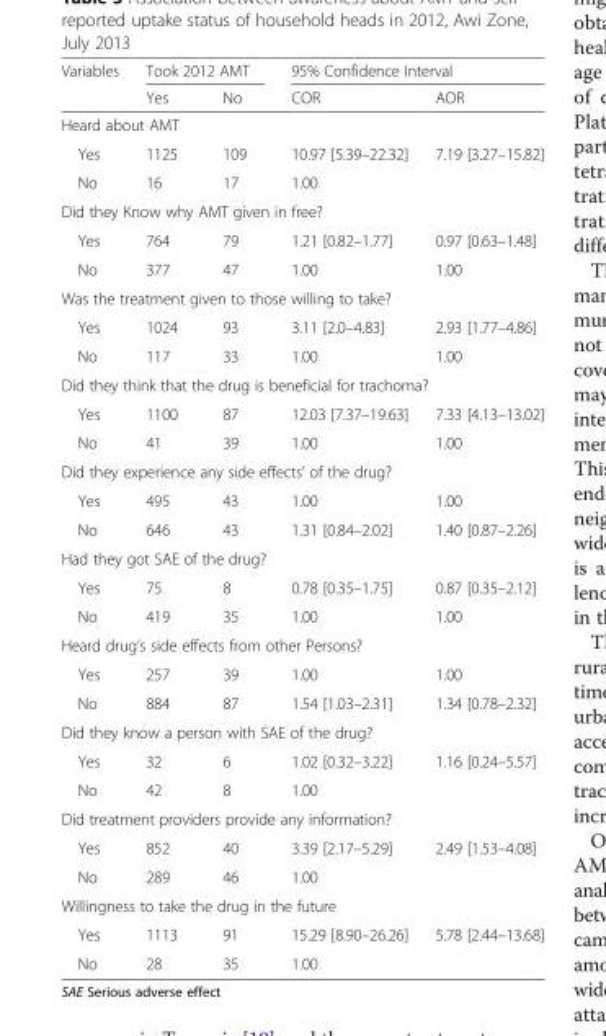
<table><thead><tr><td rowspan="2">Variables</td><td colspan="2">Took 2012 AMT</td><td colspan="2">95% Confidence Interval</td></tr><tr><td>Yes</td><td>No</td><td>COR</td><td>AOR</td></tr></thead><tbody><tr><td colspan="5">Heard about AMT</td></tr><tr><td>Yes</td><td>1125</td><td>109</td><td>10.97 [5.39–22.32]</td><td>7.19 [3.27–15.82]</td></tr><tr><td>No</td><td>16</td><td>17</td><td>1.00</td><td></td></tr><tr><td colspan="5">Did they Know why AMT given in free?</td></tr><tr><td>Yes</td><td>764</td><td>79</td><td>1.21 [0.82–1.77]</td><td>0.97 [0.63–1.48]</td></tr><tr><td>No</td><td>377</td><td>47</td><td>1.00</td><td>1.00</td></tr><tr><td colspan="5">Was the treatment given to those willing to take?</td></tr><tr><td>Yes</td><td>1024</td><td>93</td><td>3.11 [2.0–4.83]</td><td>2.93 [1.77–4.86]</td></tr><tr><td>No</td><td>117</td><td>33</td><td>1.00</td><td>1.00</td></tr><tr><td colspan="5">Did they think that the drug is beneficial for trachoma?</td></tr><tr><td>Yes</td><td>1100</td><td>87</td><td>12.03 [7.37–19.63]</td><td>7.33 [4.13–13.02]</td></tr><tr><td>No</td><td>41</td><td>39</td><td>1.00</td><td>1.00</td></tr><tr><td colspan="5">Did they experience any side effects’ of the drug?</td></tr><tr><td>Yes</td><td>495</td><td>43</td><td>1.00</td><td>1.00</td></tr><tr><td>No</td><td>646</td><td>43</td><td>1.31 [0.84–2.02]</td><td>1.40 [0.87–2.26]</td></tr><tr><td colspan="5">Had they got SAE of the drug?</td></tr><tr><td>Yes</td><td>75</td><td>8</td><td>0.78 [0.35–1.75]</td><td>0.87 [0.35–2.12]</td></tr><tr><td>No</td><td>419</td><td>35</td><td>1.00</td><td>1.00</td></tr><tr><td colspan="5">Heard drug’s side effects from other Persons?</td></tr><tr><td>Yes</td><td>257</td><td>39</td><td>1.00</td><td>1.00</td></tr><tr><td>No</td><td>884</td><td>87</td><td>1.54 [1.03–2.31]</td><td>1.34 [0.78–2.32]</td></tr><tr><td colspan="5">Did they know a person with SAE of the drug?</td></tr><tr><td>Yes</td><td>32</td><td>6</td><td>1.02 [0.32–3.22]</td><td>1.16 [0.24–5.57]</td></tr><tr><td>No</td><td>42</td><td>8</td><td>1.00</td><td></td></tr><tr><td colspan="5">Did treatment providers provide any information?</td></tr><tr><td>Yes</td><td>852</td><td>40</td><td>3.39 [2.17–5.29]</td><td>2.49 [1.53–4.08]</td></tr><tr><td>No</td><td>289</td><td>46</td><td>1.00</td><td></td></tr><tr><td colspan="5">Willingness to take the drug in the future</td></tr><tr><td>Yes</td><td>1113</td><td>91</td><td>15.29 [8.90–26.26]</td><td>5.78 [2.44–13.68]</td></tr><tr><td>No</td><td>28</td><td>35</td><td>1.00</td><td></td></tr></tbody></table>